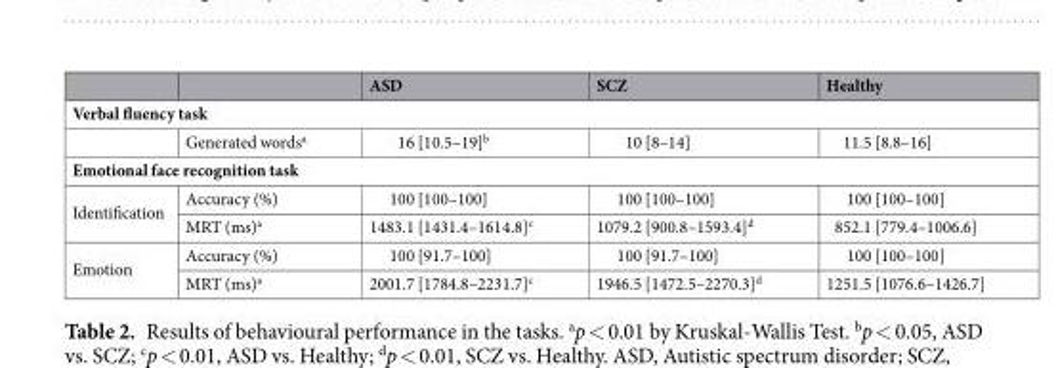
<table><thead><tr><td></td><td></td><td>ASD</td><td>SCZ</td><td>Healthy</td></tr></thead><tbody><tr><td colspan="5">Verbal fluency task</td></tr><tr><td></td><td>Generated words<sup>a</sup></td><td>16 [10.5–19]<sup>b</sup></td><td>10 [8–14]</td><td>11.5 [8.8–16]</td></tr><tr><td colspan="5">Emotional face recognition task</td></tr><tr><td rowspan="2">Identification</td><td>Accuracy (%)</td><td>100 [100–100]</td><td>100 [100–100]</td><td>100 [100–100]</td></tr><tr><td>MRT (ms)<sup>a</sup></td><td>1483.1 [1431.4–1614.8]<sup>c</sup></td><td>1079.2 [900.8–1593.4]<sup>d</sup></td><td>852.1 [779.4–1006.6]</td></tr><tr><td rowspan="2">Emotion</td><td>Accuracy (%)</td><td>100 [91.7–100]</td><td>100 [91.7–100]</td><td>100 [100–100]</td></tr><tr><td>MRT (ms)<sup>a</sup></td><td>2001.7 [1784.8–2231.7]<sup>c</sup></td><td>1946.5 [1472.5–2270.3]<sup>d</sup></td><td>1251.5 [1076.6–1426.7]</td></tr></tbody></table>